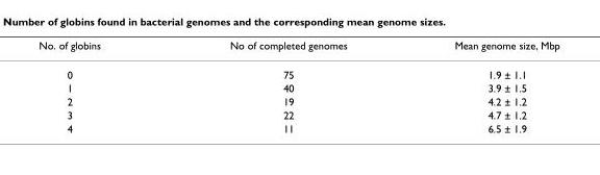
<table><thead><tr><td>No. of globins</td><td>No of completed genomes</td><td>Mean genome size, Mbp</td></tr></thead><tbody><tr><td>0</td><td>75</td><td>1.9 ± 1.1</td></tr><tr><td>1</td><td>40</td><td>3.9 ± 1.5</td></tr><tr><td>2</td><td>19</td><td>4.2 ± 1.2</td></tr><tr><td>3</td><td>22</td><td>4.7 ± 1.2</td></tr><tr><td>4</td><td>11</td><td>6.5 ± 1.9</td></tr></tbody></table>